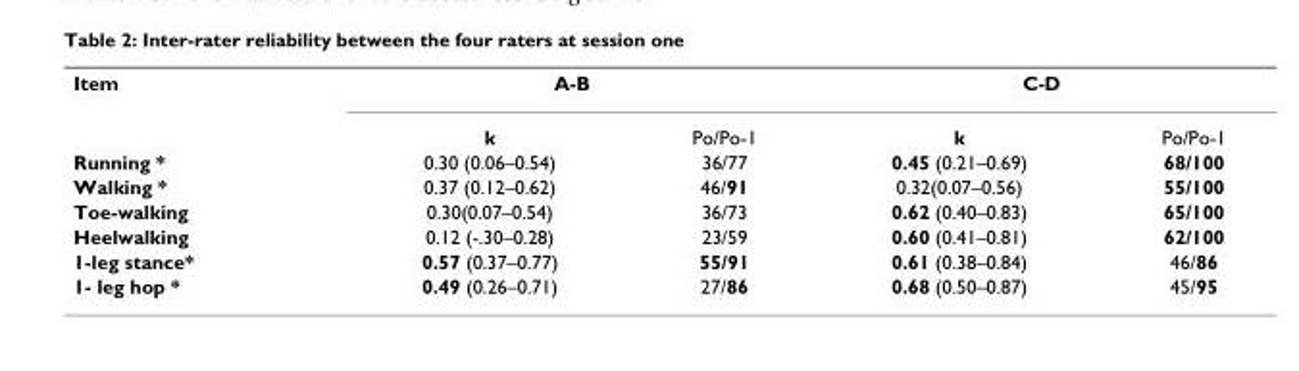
<table><tbody><tr><td rowspan="2">Item</td><td colspan="2">A-B</td><td colspan="2">C-D</td></tr><tr><td>k</td><td>Po/Po-1</td><td>k</td><td>Po/Po-1</td></tr><tr><td>Running *</td><td>0.30 (0.06–0.54)</td><td>36/77</td><td>0.45 (0.21–0.69)</td><td>68/100</td></tr><tr><td>Walking *</td><td>0.37 (0.12–0.62)</td><td>46/91</td><td>0.32(0.07–0.56)</td><td>55/100</td></tr><tr><td>Toe-walking</td><td>0.30(0.07–0.54)</td><td>36/73</td><td>0.62 (0.40–0.83)</td><td>65/100</td></tr><tr><td>Heelwalking</td><td>0.12 (-.30–0.28)</td><td>23/59</td><td>0.60 (0.41–0.81)</td><td>62/100</td></tr><tr><td>1-leg stance*</td><td>0.57 (0.37–0.77)</td><td>55/91</td><td>0.61 (0.38–0.84)</td><td>46/86</td></tr><tr><td>1- leg hop *</td><td>0.49 (0.26–0.71)</td><td>27/86</td><td>0.68 (0.50–0.87)</td><td>45/95</td></tr></tbody></table>